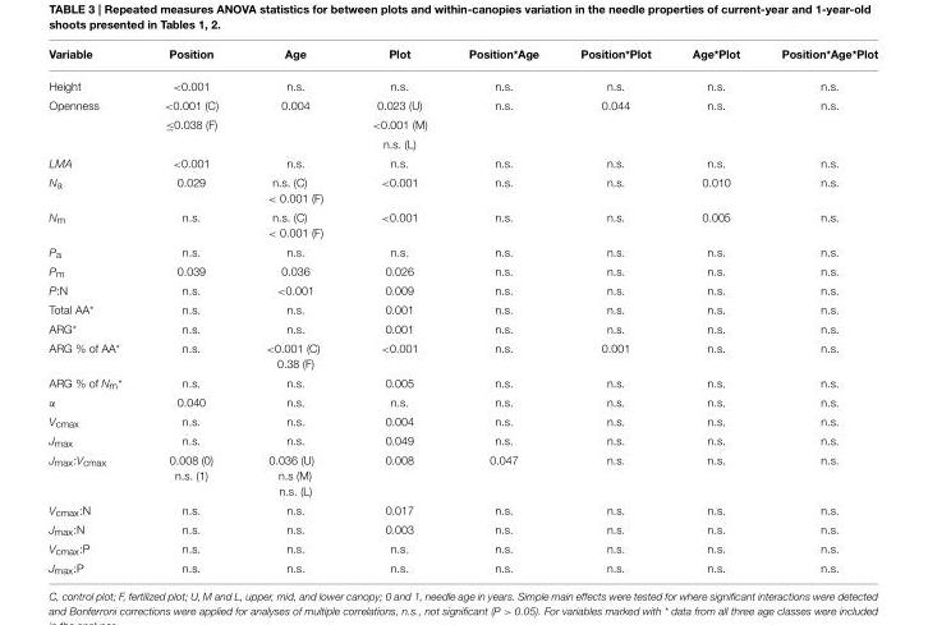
<table><thead><tr><td>Variable</td><td>Position</td><td>Age</td><td>Plot</td><td>Position*Age</td><td>Position*Plot</td><td>Age*Plot</td><td>Position*Age*Plot</td></tr></thead><tbody><tr><td>Height</td><td>&lt;0.001</td><td>n.s.</td><td>n.s.</td><td>n.s.</td><td>n.s.</td><td>n.s.</td><td>n.s.</td></tr><tr><td rowspan="3">Openness</td><td>&lt;0.001 (C)</td><td>0.004</td><td>0.023 (U)</td><td>n.s.</td><td>0.044</td><td>n.s.</td><td>n.s.</td></tr><tr><td>≤0.038 (F)</td><td></td><td>&lt;0.001 (M)</td><td></td><td></td><td></td><td></td></tr><tr><td></td><td></td><td>n.s. (L)</td><td></td><td></td><td></td><td></td></tr><tr><td>LMA</td><td>&lt;0.001</td><td>n.s.</td><td>n.s.</td><td>n.s.</td><td>n.s.</td><td>n.s.</td><td>n.s.</td></tr><tr><td>N<sub>a</sub></td><td>0.029</td><td>n.s. (C) &lt; 0.001 (F)</td><td>&lt;0.001</td><td>n.s.</td><td>n.s.</td><td>0.010</td><td>n.s.</td></tr><tr><td>N<sub>m</sub></td><td>n.s.</td><td>n.s. (C) &lt; 0.001 (F)</td><td>&lt;0.001</td><td>n.s.</td><td>n.s.</td><td>0.005</td><td>n.s.</td></tr><tr><td>P<sub>a</sub></td><td>n.s.</td><td>n.s.</td><td>n.s.</td><td>n.s.</td><td>n.s.</td><td>n.s.</td><td>n.s.</td></tr><tr><td>P<sub>m</sub></td><td>0.039</td><td>0.036</td><td>0.026</td><td>n.s.</td><td>n.s.</td><td>n.s.</td><td>n.s.</td></tr><tr><td>P:N</td><td>n.s.</td><td>&lt;0.001</td><td>0.009</td><td>n.s.</td><td>n.s.</td><td>n.s.</td><td>n.s.</td></tr><tr><td>Total AA*</td><td>n.s.</td><td>n.s.</td><td>0.001</td><td>n.s.</td><td>n.s.</td><td>n.s.</td><td>n.s.</td></tr><tr><td>ARG*</td><td>n.s.</td><td>n.s.</td><td>0.001</td><td>n.s.</td><td>n.s.</td><td>n.s.</td><td>n.s.</td></tr><tr><td>ARG % of AA*</td><td>n.s.</td><td>&lt;0.001 (C) 0.38 (F)</td><td>&lt;0.001</td><td>n.s.</td><td>0.001</td><td>n.s.</td><td>n.s.</td></tr><tr><td>ARG % of N<sub>m</sub>*</td><td>n.s.</td><td>n.s.</td><td>0.005</td><td>n.s.</td><td>n.s.</td><td>n.s.</td><td>n.s.</td></tr><tr><td>α</td><td>0.040</td><td>n.s.</td><td>n.s.</td><td>n.s.</td><td>n.s.</td><td>n.s.</td><td>n.s.</td></tr><tr><td>V<sub>cmax</sub></td><td>n.s.</td><td>n.s.</td><td>0.004</td><td>n.s.</td><td>n.s.</td><td>n.s.</td><td>n.s.</td></tr><tr><td>J<sub>max</sub></td><td>n.s.</td><td>n.s.</td><td>0.049</td><td>n.s.</td><td>n.s.</td><td>n.s.</td><td>n.s.</td></tr><tr><td>J<sub>max</sub>:V<sub>cmax</sub></td><td>0.008 (0) n.s. (1)</td><td>0.036 (U) n.s (M) n.s. (L)</td><td>0.008</td><td>0.047</td><td>n.s.</td><td>n.s.</td><td>n.s.</td></tr><tr><td>V<sub>cmax</sub>:N</td><td>n.s.</td><td>n.s.</td><td>0.017</td><td>n.s.</td><td>n.s.</td><td>n.s.</td><td>n.s.</td></tr><tr><td>J<sub>max</sub>:N</td><td>n.s.</td><td>n.s.</td><td>0.003</td><td>n.s.</td><td>n.s.</td><td>n.s.</td><td>n.s.</td></tr><tr><td>V<sub>cmax</sub>:P</td><td>n.s.</td><td>n.s.</td><td>n.s.</td><td>n.s.</td><td>n.s.</td><td>n.s.</td><td>n.s.</td></tr><tr><td>J<sub>max</sub>:P</td><td>n.s.</td><td>n.s.</td><td>n.s.</td><td>n.s.</td><td>n.s.</td><td>n.s.</td><td>n.s.</td></tr></tbody></table>